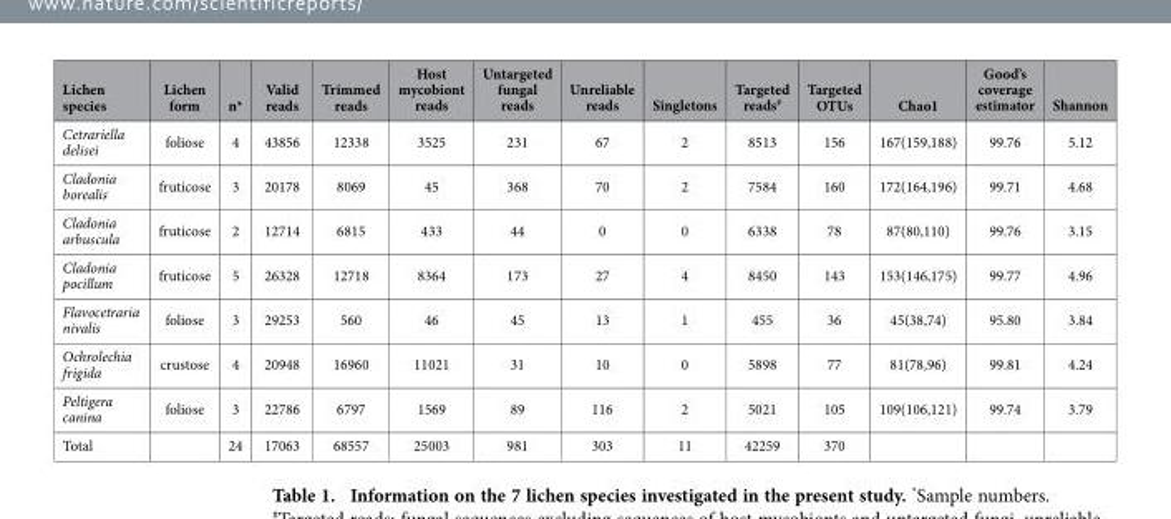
<table><thead><tr><td>Lichen species</td><td>Lichen form</td><td>n*</td><td>Valid reads</td><td>Trimmed reads</td><td>Host mycobiont reads</td><td>Untargeted fungal reads</td><td>Unreliable reads</td><td>Singletons</td><td>Targeted reads#</td><td>Targeted OTUs</td><td>Chao1</td><td>Good’s coverage estimator</td><td>Shannon</td></tr></thead><tbody><tr><td>Cetrariella delisei</td><td>foliose</td><td>4</td><td>43856</td><td>12338</td><td>3525</td><td>231</td><td>67</td><td>2</td><td>8513</td><td>156</td><td>167(159,188)</td><td>99.76</td><td>5.12</td></tr><tr><td>Cladonia borealis</td><td>fruticose</td><td>3</td><td>20178</td><td>8069</td><td>45</td><td>368</td><td>70</td><td>2</td><td>7584</td><td>160</td><td>172(164,196)</td><td>99.71</td><td>4.68</td></tr><tr><td>Cladonia arbuscula</td><td>fruticose</td><td>2</td><td>12714</td><td>6815</td><td>433</td><td>44</td><td>0</td><td>0</td><td>6338</td><td>78</td><td>87(80,110)</td><td>99.76</td><td>3.15</td></tr><tr><td>Cladonia pocillum</td><td>fruticose</td><td>5</td><td>26328</td><td>12718</td><td>8364</td><td>173</td><td>27</td><td>4</td><td>8450</td><td>143</td><td>153(146,175)</td><td>99.77</td><td>4.96</td></tr><tr><td>Flavocetraria nivalis</td><td>foliose</td><td>3</td><td>29253</td><td>560</td><td>46</td><td>45</td><td>13</td><td>1</td><td>455</td><td>36</td><td>45(38,74)</td><td>95.80</td><td>3.84</td></tr><tr><td>Ochrolechia frigida</td><td>crustose</td><td>4</td><td>20948</td><td>16960</td><td>11021</td><td>31</td><td>10</td><td>0</td><td>5898</td><td>77</td><td>81(78,96)</td><td>99.81</td><td>4.24</td></tr><tr><td>Peltigera canina</td><td>foliose</td><td>3</td><td>22786</td><td>6797</td><td>1569</td><td>89</td><td>116</td><td>2</td><td>5021</td><td>105</td><td>109(106,121)</td><td>99.74</td><td>3.79</td></tr><tr><td>Total</td><td></td><td>24</td><td>17063</td><td>68557</td><td>25003</td><td>981</td><td>303</td><td>11</td><td>42259</td><td>370</td><td></td><td></td><td></td></tr></tbody></table>